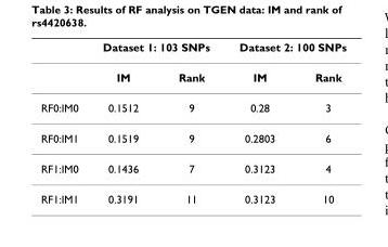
<table><thead><tr><td rowspan="2"></td><td colspan="2">Dataset 1: 103 SNPs</td><td colspan="2">Dataset 2: 100 SNPs</td></tr><tr><td>IM</td><td>Rank</td><td>IM</td><td>Rank</td></tr></thead><tbody><tr><td>RF0:IM0</td><td>0.1512</td><td>9</td><td>0.28</td><td>3</td></tr><tr><td>RF0:IM1</td><td>0.1519</td><td>9</td><td>0.2803</td><td>6</td></tr><tr><td>RF1:IM0</td><td>0.1436</td><td>7</td><td>0.3123</td><td>4</td></tr><tr><td>RF1:IM1</td><td>0.3191</td><td>11</td><td>0.3123</td><td>10</td></tr></tbody></table>